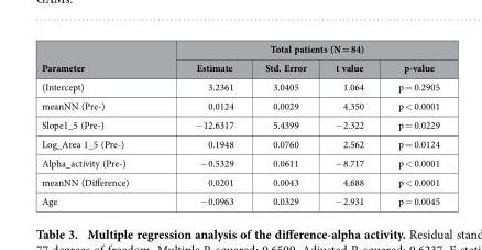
<table><thead><tr><td rowspan="2">Parameter</td><td colspan="4">Total patients (N = 84)</td></tr><tr><td>Estimate</td><td>Std. Error</td><td>t value</td><td>p-value</td></tr></thead><tbody><tr><td>(Intercept)</td><td>3.2361</td><td>3.0405</td><td>1.064</td><td>p = 0.2905</td></tr><tr><td>meanNN (Pre-)</td><td>0.0124</td><td>0.0029</td><td>4.350</td><td>p &lt; 0.0001</td></tr><tr><td>Slope1_5 (Pre-)</td><td>− 12.6317</td><td>5.4399</td><td>− 2.322</td><td>p = 0.0229</td></tr><tr><td>Log_Area 1_5 (Pre-)</td><td>0.1948</td><td>0.0760</td><td>2.562</td><td>p = 0.0124</td></tr><tr><td>Alpha_activity (Pre-)</td><td>− 0.5329</td><td>0.0611</td><td>− 8.717</td><td>p &lt; 0.0001</td></tr><tr><td>meanNN (Difference)</td><td>0.0201</td><td>0.0043</td><td>4.688</td><td>p &lt; 0.0001</td></tr><tr><td>Age</td><td>− 0.0963</td><td>0.0329</td><td>− 2.931</td><td>p = 0.0045</td></tr></tbody></table>